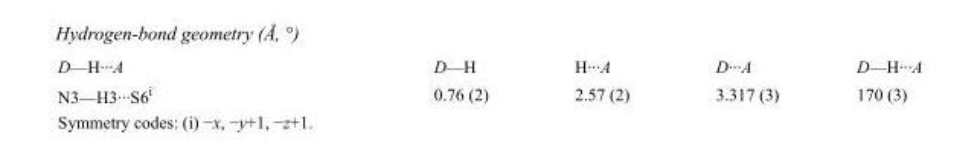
<table><tbody><tr><td>D—H···A</td><td>D—H</td><td>H···A</td><td>D···A</td><td>D—H···A</td></tr><tr><td>N3—H3···S6<sup>i</sup></td><td>0.76 (2)</td><td>2.57 (2)</td><td>3.317 (3)</td><td>170 (3)</td></tr></tbody></table>